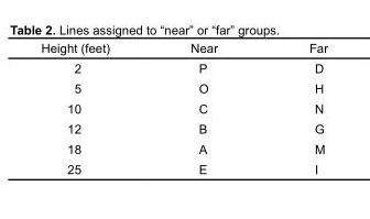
<table><thead><tr><td>Height (feet)</td><td>Near</td><td>Far</td></tr></thead><tbody><tr><td>2</td><td>P</td><td>D</td></tr><tr><td>5</td><td>O</td><td>H</td></tr><tr><td>10</td><td>C</td><td>N</td></tr><tr><td>12</td><td>B</td><td>G</td></tr><tr><td>18</td><td>A</td><td>M</td></tr><tr><td>25</td><td>E</td><td>I</td></tr></tbody></table>